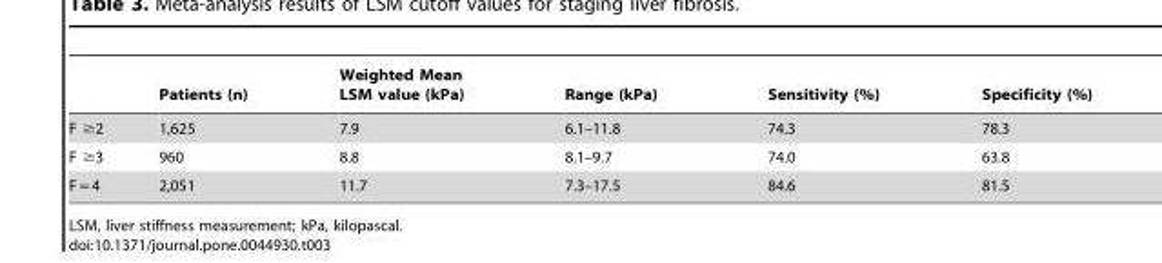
<table><thead><tr><td></td><td>Patients (n)</td><td>Weighted Mean LSM value (kPa)</td><td>Range (kPa)</td><td>Sensitivity (%)</td><td>Specificity (%)</td></tr></thead><tbody><tr><td>F ≥2</td><td>1,625</td><td>7.9</td><td>6.1–11.8</td><td>74.3</td><td>78.3</td></tr><tr><td>F ≥3</td><td>960</td><td>8.8</td><td>8.1–9.7</td><td>74.0</td><td>63.8</td></tr><tr><td>F = 4</td><td>2,051</td><td>11.7</td><td>7.3–17.5</td><td>84.6</td><td>81.5</td></tr></tbody></table>